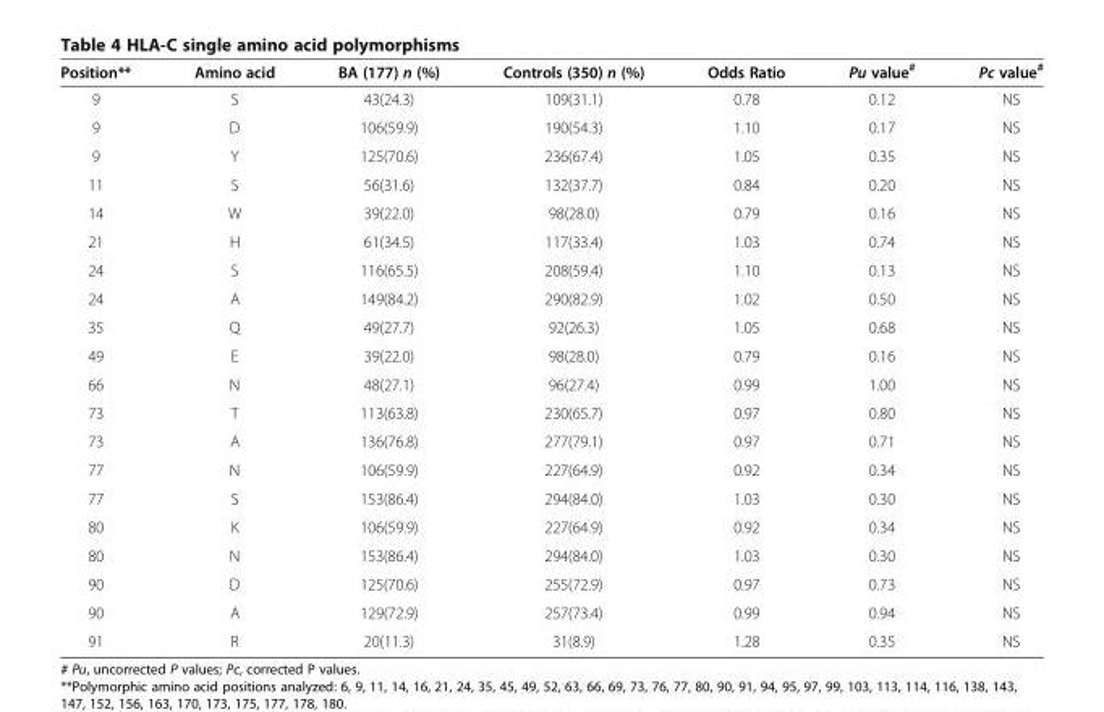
<table><thead><tr><td>Position**</td><td>Amino acid</td><td>BA (177) n (%)</td><td>Controls (350) n (%)</td><td>Odds Ratio</td><td>Pu value<sup>#</sup></td><td>Pc value<sup>#</sup></td></tr></thead><tbody><tr><td>9</td><td>S</td><td>43(24.3)</td><td>109(31.1)</td><td>0.78</td><td>0.12</td><td>NS</td></tr><tr><td>9</td><td>D</td><td>106(59.9)</td><td>190(54.3)</td><td>1.10</td><td>0.17</td><td>NS</td></tr><tr><td>9</td><td>Y</td><td>125(70.6)</td><td>236(67.4)</td><td>1.05</td><td>0.35</td><td>NS</td></tr><tr><td>11</td><td>S</td><td>56(31.6)</td><td>132(37.7)</td><td>0.84</td><td>0.20</td><td>NS</td></tr><tr><td>14</td><td>W</td><td>39(22.0)</td><td>98(28.0)</td><td>0.79</td><td>0.16</td><td>NS</td></tr><tr><td>21</td><td>H</td><td>61(34.5)</td><td>117(33.4)</td><td>1.03</td><td>0.74</td><td>NS</td></tr><tr><td>24</td><td>S</td><td>116(65.5)</td><td>208(59.4)</td><td>1.10</td><td>0.13</td><td>NS</td></tr><tr><td>24</td><td>A</td><td>149(84.2)</td><td>290(82.9)</td><td>1.02</td><td>0.50</td><td>NS</td></tr><tr><td>35</td><td>Q</td><td>49(27.7)</td><td>92(26.3)</td><td>1.05</td><td>0.68</td><td>NS</td></tr><tr><td>49</td><td>E</td><td>39(22.0)</td><td>98(28.0)</td><td>0.79</td><td>0.16</td><td>NS</td></tr><tr><td>66</td><td>N</td><td>48(27.1)</td><td>96(27.4)</td><td>0.99</td><td>1.00</td><td>NS</td></tr><tr><td>73</td><td>T</td><td>113(63.8)</td><td>230(65.7)</td><td>0.97</td><td>0.80</td><td>NS</td></tr><tr><td>73</td><td>A</td><td>136(76.8)</td><td>277(79.1)</td><td>0.97</td><td>0.71</td><td>NS</td></tr><tr><td>77</td><td>N</td><td>106(59.9)</td><td>227(64.9)</td><td>0.92</td><td>0.34</td><td>NS</td></tr><tr><td>77</td><td>S</td><td>153(86.4)</td><td>294(84.0)</td><td>1.03</td><td>0.30</td><td>NS</td></tr><tr><td>80</td><td>K</td><td>106(59.9)</td><td>227(64.9)</td><td>0.92</td><td>0.34</td><td>NS</td></tr><tr><td>80</td><td>N</td><td>153(86.4)</td><td>294(84.0)</td><td>1.03</td><td>0.30</td><td>NS</td></tr><tr><td>90</td><td>D</td><td>125(70.6)</td><td>255(72.9)</td><td>0.97</td><td>0.73</td><td>NS</td></tr><tr><td>90</td><td>A</td><td>129(72.9)</td><td>257(73.4)</td><td>0.99</td><td>0.94</td><td>NS</td></tr><tr><td>91</td><td>R</td><td>20(11.3)</td><td>31(8.9)</td><td>1.28</td><td>0.35</td><td>NS</td></tr></tbody></table>